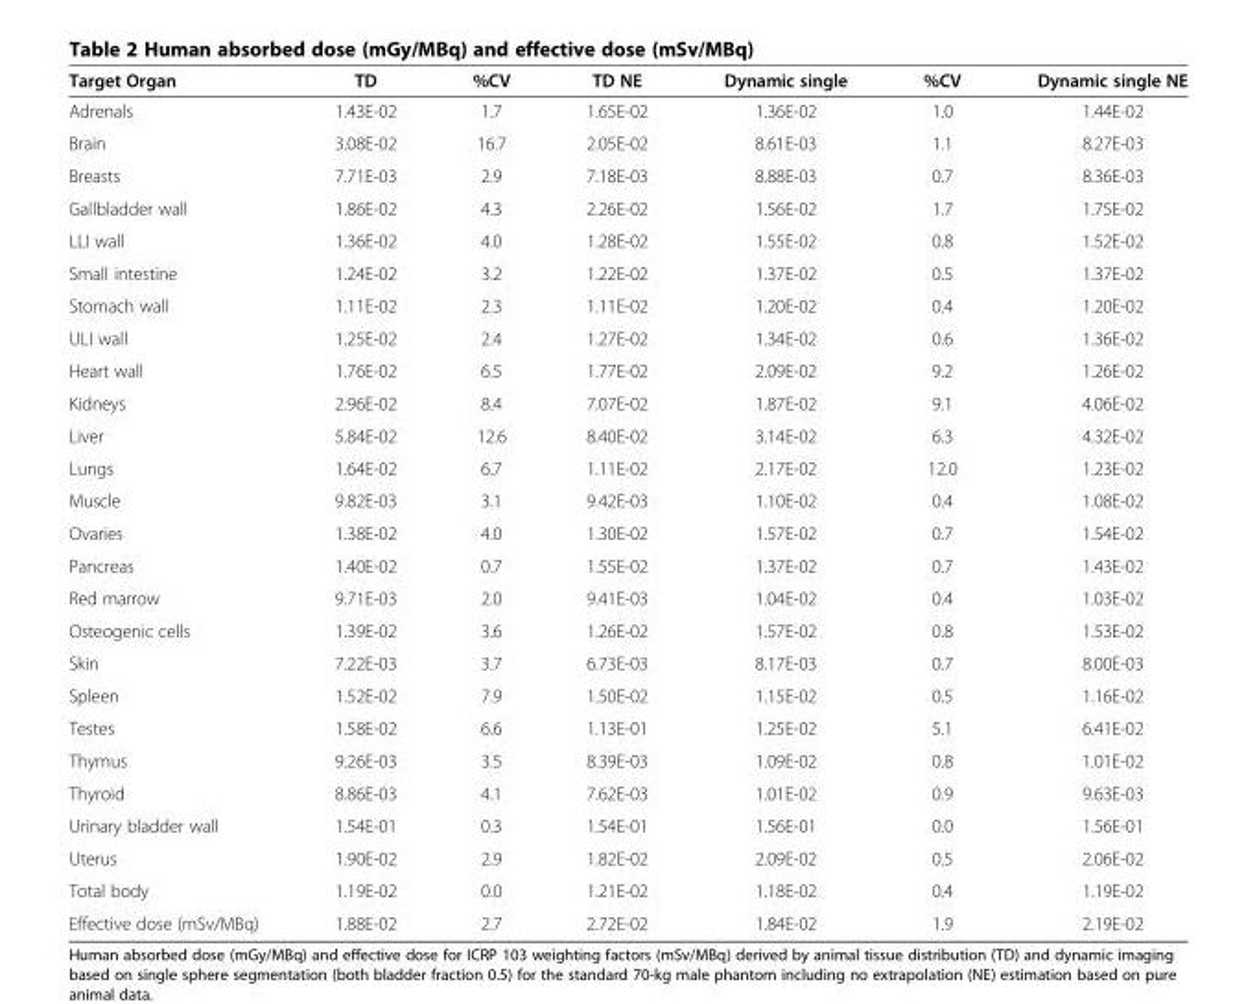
<table><thead><tr><td>Target Organ</td><td>TD</td><td>%CV</td><td>TD NE</td><td>Dynamic single</td><td>%CV</td><td>Dynamic single NE</td></tr></thead><tbody><tr><td>Adrenals</td><td>1.43E-02</td><td>1.7</td><td>1.65E-02</td><td>1.36E-02</td><td>1.0</td><td>1.44E-02</td></tr><tr><td>Brain</td><td>3.08E-02</td><td>16.7</td><td>2.05E-02</td><td>8.61E-03</td><td>1.1</td><td>8.27E-03</td></tr><tr><td>Breasts</td><td>7.71E-03</td><td>2.9</td><td>7.18E-03</td><td>8.88E-03</td><td>0.7</td><td>8.36E-03</td></tr><tr><td>Gallbladder wall</td><td>1.86E-02</td><td>4.3</td><td>2.26E-02</td><td>1.56E-02</td><td>1.7</td><td>1.75E-02</td></tr><tr><td>LLI wall</td><td>1.36E-02</td><td>4.0</td><td>1.28E-02</td><td>1.55E-02</td><td>0.8</td><td>1.52E-02</td></tr><tr><td>Small intestine</td><td>1.24E-02</td><td>3.2</td><td>1.22E-02</td><td>1.37E-02</td><td>0.5</td><td>1.37E-02</td></tr><tr><td>Stomach wall</td><td>1.11E-02</td><td>2.3</td><td>1.11E-02</td><td>1.20E-02</td><td>0.4</td><td>1.20E-02</td></tr><tr><td>ULI wall</td><td>1.25E-02</td><td>2.4</td><td>1.27E-02</td><td>1.34E-02</td><td>0.6</td><td>1.36E-02</td></tr><tr><td>Heart wall</td><td>1.76E-02</td><td>6.5</td><td>1.77E-02</td><td>2.09E-02</td><td>9.2</td><td>1.26E-02</td></tr><tr><td>Kidneys</td><td>2.96E-02</td><td>8.4</td><td>7.07E-02</td><td>1.87E-02</td><td>9.1</td><td>4.06E-02</td></tr><tr><td>Liver</td><td>5.84E-02</td><td>12.6</td><td>8.40E-02</td><td>3.14E-02</td><td>6.3</td><td>4.32E-02</td></tr><tr><td>Lungs</td><td>1.64E-02</td><td>6.7</td><td>1.11E-02</td><td>2.17E-02</td><td>12.0</td><td>1.23E-02</td></tr><tr><td>Muscle</td><td>9.82E-03</td><td>3.1</td><td>9.42E-03</td><td>1.10E-02</td><td>0.4</td><td>1.08E-02</td></tr><tr><td>Ovaries</td><td>1.38E-02</td><td>4.0</td><td>1.30E-02</td><td>1.57E-02</td><td>0.7</td><td>1.54E-02</td></tr><tr><td>Pancreas</td><td>1.40E-02</td><td>0.7</td><td>1.55E-02</td><td>1.37E-02</td><td>0.7</td><td>1.43E-02</td></tr><tr><td>Red marrow</td><td>9.71E-03</td><td>2.0</td><td>9.41E-03</td><td>1.04E-02</td><td>0.4</td><td>1.03E-02</td></tr><tr><td>Osteogenic cells</td><td>1.39E-02</td><td>3.6</td><td>1.26E-02</td><td>1.57E-02</td><td>0.8</td><td>1.53E-02</td></tr><tr><td>Skin</td><td>7.22E-03</td><td>3.7</td><td>6.73E-03</td><td>8.17E-03</td><td>0.7</td><td>8.00E-03</td></tr><tr><td>Spleen</td><td>1.52E-02</td><td>7.9</td><td>1.50E-02</td><td>1.15E-02</td><td>0.5</td><td>1.16E-02</td></tr><tr><td>Testes</td><td>1.58E-02</td><td>6.6</td><td>1.13E-01</td><td>1.25E-02</td><td>5.1</td><td>6.41E-02</td></tr><tr><td>Thymus</td><td>9.26E-03</td><td>3.5</td><td>8.39E-03</td><td>1.09E-02</td><td>0.8</td><td>1.01E-02</td></tr><tr><td>Thyroid</td><td>8.86E-03</td><td>4.1</td><td>7.62E-03</td><td>1.01E-02</td><td>0.9</td><td>9.63E-03</td></tr><tr><td>Urinary bladder wall</td><td>1.54E-01</td><td>0.3</td><td>1.54E-01</td><td>1.56E-01</td><td>0.0</td><td>1.56E-01</td></tr><tr><td>Uterus</td><td>1.90E-02</td><td>2.9</td><td>1.82E-02</td><td>2.09E-02</td><td>0.5</td><td>2.06E-02</td></tr><tr><td>Total body</td><td>1.19E-02</td><td>0.0</td><td>1.21E-02</td><td>1.18E-02</td><td>0.4</td><td>1.19E-02</td></tr><tr><td>Effective dose (mSv/MBq)</td><td>1.88E-02</td><td>2.7</td><td>2.72E-02</td><td>1.84E-02</td><td>1.9</td><td>2.19E-02</td></tr></tbody></table>